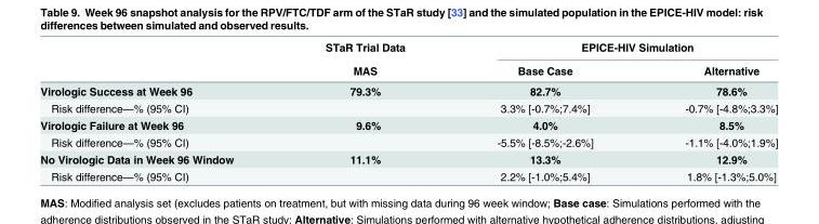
<table><thead><tr><td rowspan="2"></td><td rowspan="2">STaR Trial Data MAS</td><td colspan="2">EPICE-HIV Simulation</td></tr><tr><td>Base Case</td><td>Alternative</td></tr></thead><tbody><tr><td>Virologic Success at Week 96</td><td>79.3%</td><td>82.7%</td><td>78.6%</td></tr><tr><td>Risk difference—% (95% CI)</td><td></td><td>3.3% [-0.7%;7.4%]</td><td>-0.7% [-4.8%;3.3%]</td></tr><tr><td>Virologic Failure at Week 96</td><td>9.6%</td><td>4.0%</td><td>8.5%</td></tr><tr><td>Risk difference—% (95% CI)</td><td></td><td>-5.5% [-8.5%;-2.6%]</td><td>-1.1% [-4.0%;1.9%]</td></tr><tr><td>No Virologic Data in Week 96 Window</td><td>11.1%</td><td>13.3%</td><td>12.9%</td></tr><tr><td>Risk difference—% (95% CI)</td><td></td><td>2.2% [-1.0%;5.4%]</td><td>1.8% [-1.3%;5.0%]</td></tr></tbody></table>